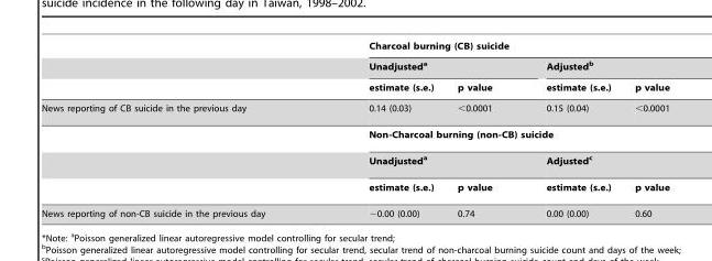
<table><thead><tr><td rowspan="3"></td><td colspan="4">Charcoal burning (CB) suicide</td></tr><tr><td colspan="2">Unadjusted<sup>a</sup></td><td colspan="2">Adjusted<sup>b</sup></td></tr><tr><td>estimate (s.e.)</td><td>p value</td><td>estimate (s.e.)</td><td>p value</td></tr></thead><tbody><tr><td rowspan="4">News reporting of CB suicide in the previous day</td><td>0.14 (0.03)</td><td>&lt;0.0001</td><td>0.15 (0.04)</td><td>&lt;0.0001</td></tr><tr><td colspan="4">Non-Charcoal burning (non-CB) suicide</td></tr><tr><td colspan="2">Unadjusted<sup>a</sup></td><td colspan="2">Adjustedc</td></tr><tr><td>estimate (s.e.)</td><td>p value</td><td>estimate (s.e.)</td><td>p value</td></tr><tr><td>News reporting of non-CB suicide in the previous day</td><td>−0.00 (0.00)</td><td>0.74</td><td>0.00 (0.00)</td><td>0.60</td></tr></tbody></table>